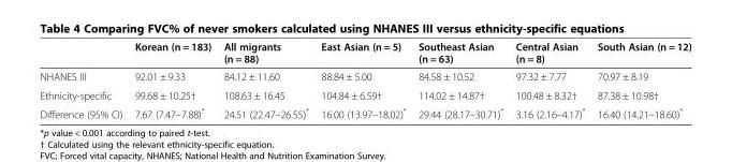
<table><thead><tr><td></td><td>Korean (n = 183)</td><td>All migrants (n = 88)</td><td>East Asian (n = 5)</td><td>Southeast Asian (n = 63)</td><td>Central Asian (n = 8)</td><td>South Asian (n = 12)</td></tr></thead><tbody><tr><td>NHANES III</td><td>92.01 ± 9.33</td><td>84.12 ± 11.60</td><td>88.84 ± 5.00</td><td>84.58 ± 10.52</td><td>97.32 ± 7.77</td><td>70.97 ± 8.19</td></tr><tr><td>Ethnicity-specific</td><td>99.68 ± 10.25†</td><td>108.63 ± 16.45</td><td>104.84 ± 6.59†</td><td>114.02 ± 14.87†</td><td>100.48 ± 8.32†</td><td>87.38 ± 10.98†</td></tr><tr><td>Difference (95% CI)</td><td>7.67 (7.47–7.88)*</td><td>24.51 (22.47–26.55)*</td><td>16.00 (13.97–18.02)*</td><td>29.44 (28.17–30.71)*</td><td>3.16 (2.16–4.17)*</td><td>16.40 (14.21–18.60)*</td></tr></tbody></table>